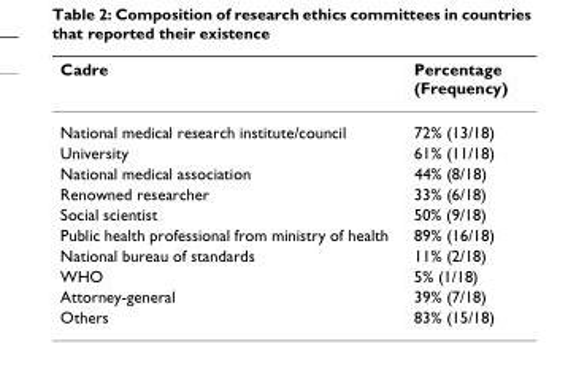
<table><thead><tr><td>Cadre</td><td>Percentage (Frequency)</td></tr></thead><tbody><tr><td>National medical research institute/council</td><td>72% (13/18)</td></tr><tr><td>University</td><td>61% (11/18)</td></tr><tr><td>National medical association</td><td>44% (8/18)</td></tr><tr><td>Renowned researcher</td><td>33% (6/18)</td></tr><tr><td>Social scientist</td><td>50% (9/18)</td></tr><tr><td>Public health professional from ministry of health</td><td>89% (16/18)</td></tr><tr><td>National bureau of standards</td><td>11% (2/18)</td></tr><tr><td>WHO</td><td>5% (1/18)</td></tr><tr><td>Attorney-general</td><td>39% (7/18)</td></tr><tr><td>Others</td><td>83% (15/18)</td></tr></tbody></table>